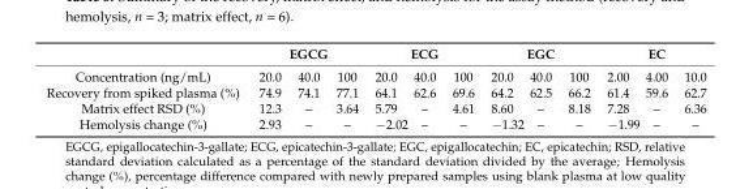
<table><thead><tr><td rowspan="2">Concentration (ng/mL)</td><td colspan="3">EGCG</td><td colspan="3">ECG</td><td colspan="3">EGC</td><td colspan="3">EC</td></tr><tr><td>20.0</td><td>40.0</td><td>100</td><td>20.0</td><td>40.0</td><td>100</td><td>20.0</td><td>40.0</td><td>100</td><td>2.00</td><td>4.00</td><td>10.0</td></tr></thead><tbody><tr><td>Recovery from spiked plasma (%)</td><td>74.9</td><td>74.1</td><td>77.1</td><td>64.1</td><td>62.6</td><td>69.6</td><td>64.2</td><td>62.5</td><td>66.2</td><td>61.4</td><td>59.6</td><td>62.7</td></tr><tr><td>Matrix effect RSD (%)</td><td>12.3</td><td>–</td><td>3.64</td><td>5.79</td><td>–</td><td>4.61</td><td>8.60</td><td>–</td><td>8.18</td><td>7.28</td><td>–</td><td>6.36</td></tr><tr><td>Hemolysis change (%)</td><td>2.93</td><td>–</td><td>–</td><td>−2.02</td><td>–</td><td>–</td><td>−1.32</td><td>–</td><td>–</td><td>−1.99</td><td>–</td><td>–</td></tr></tbody></table>